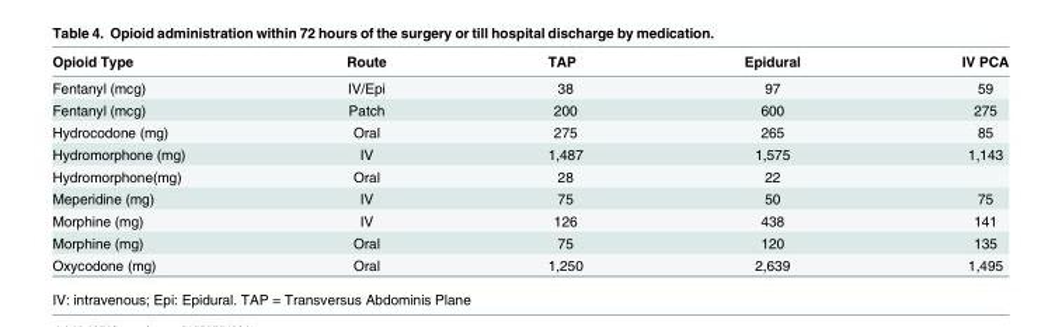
<table><thead><tr><td>Opioid Type</td><td>Route</td><td>TAP</td><td>Epidural</td><td>IV PCA</td></tr></thead><tbody><tr><td>Fentanyl (mcg)</td><td>IV/Epi</td><td>38</td><td>97</td><td>59</td></tr><tr><td>Fentanyl (mcg)</td><td>Patch</td><td>200</td><td>600</td><td>275</td></tr><tr><td>Hydrocodone (mg)</td><td>Oral</td><td>275</td><td>265</td><td>85</td></tr><tr><td>Hydromorphone (mg)</td><td>IV</td><td>1,487</td><td>1,575</td><td>1,143</td></tr><tr><td>Hydromorphone(mg)</td><td>Oral</td><td>28</td><td>22</td><td></td></tr><tr><td>Meperidine (mg)</td><td>IV</td><td>75</td><td>50</td><td>75</td></tr><tr><td>Morphine (mg)</td><td>IV</td><td>126</td><td>438</td><td>141</td></tr><tr><td>Morphine (mg)</td><td>Oral</td><td>75</td><td>120</td><td>135</td></tr><tr><td>Oxycodone (mg)</td><td>Oral</td><td>1,250</td><td>2,639</td><td>1,495</td></tr></tbody></table>